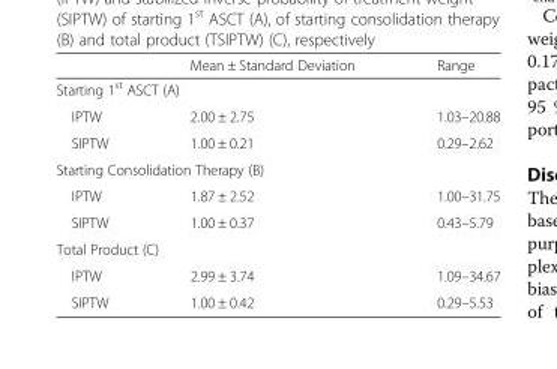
<table><thead><tr><td></td><td>Mean ± Standard Deviation</td><td>Range</td></tr></thead><tbody><tr><td colspan="3">Starting 1<sup>st</sup> ASCT (A)</td></tr><tr><td>IPTW</td><td>2.00 ± 2.75</td><td>1.03–20.88</td></tr><tr><td>SIPTW</td><td>1.00 ± 0.21</td><td>0.29–2.62</td></tr><tr><td colspan="3">Starting Consolidation Therapy (B)</td></tr><tr><td>IPTW</td><td>1.87 ± 2.52</td><td>1.00–31.75</td></tr><tr><td>SIPTW</td><td>1.00 ± 0.37</td><td>0.43–5.79</td></tr><tr><td colspan="3">Total Product (C)</td></tr><tr><td>IPTW</td><td>2.99 ± 3.74</td><td>1.09–34.67</td></tr><tr><td>SIPTW</td><td>1.00 ± 0.42</td><td>0.29–5.53</td></tr></tbody></table>